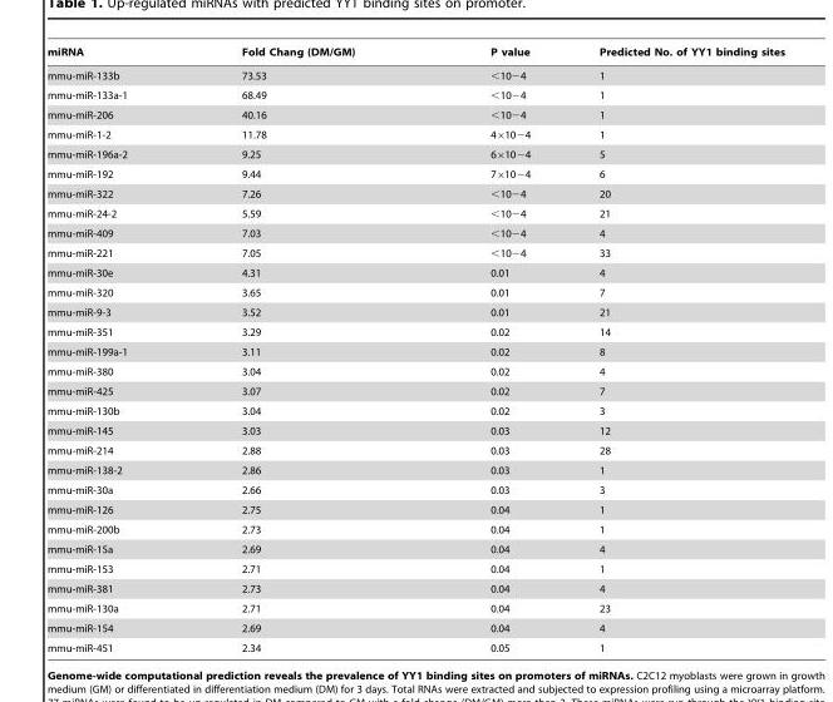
<table><thead><tr><td>miRNA</td><td>Fold Chang (DM/GM)</td><td>P value</td><td>Predicted No. of YY1 binding sites</td></tr></thead><tbody><tr><td>mmu-miR-133b</td><td>73.53</td><td>&lt;10−4</td><td>1</td></tr><tr><td>mmu-miR-133a-1</td><td>68.49</td><td>&lt;10−4</td><td>1</td></tr><tr><td>mmu-miR-206</td><td>40.16</td><td>&lt;10−4</td><td>1</td></tr><tr><td>mmu-miR-1-2</td><td>11.78</td><td>4×10−4</td><td>1</td></tr><tr><td>mmu-miR-196a-2</td><td>9.25</td><td>6×10−4</td><td>5</td></tr><tr><td>mmu-miR-192</td><td>9.44</td><td>7×10−4</td><td>6</td></tr><tr><td>mmu-miR-322</td><td>7.26</td><td>&lt;10−4</td><td>20</td></tr><tr><td>mmu-miR-24-2</td><td>5.59</td><td>&lt;10−4</td><td>21</td></tr><tr><td>mmu-miR-409</td><td>7.03</td><td>&lt;10−4</td><td>4</td></tr><tr><td>mmu-miR-221</td><td>7.05</td><td>&lt;10−4</td><td>33</td></tr><tr><td>mmu-miR-30e</td><td>4.31</td><td>0.01</td><td>4</td></tr><tr><td>mmu-miR-320</td><td>3.65</td><td>0.01</td><td>7</td></tr><tr><td>mmu-miR-9-3</td><td>3.52</td><td>0.01</td><td>21</td></tr><tr><td>mmu-miR-351</td><td>3.29</td><td>0.02</td><td>14</td></tr><tr><td>mmu-miR-199a-1</td><td>3.11</td><td>0.02</td><td>8</td></tr><tr><td>mmu-miR-380</td><td>3.04</td><td>0.02</td><td>4</td></tr><tr><td>mmu-miR-425</td><td>3.07</td><td>0.02</td><td>7</td></tr><tr><td>mmu-miR-130b</td><td>3.04</td><td>0.02</td><td>3</td></tr><tr><td>mmu-miR-145</td><td>3.03</td><td>0.03</td><td>12</td></tr><tr><td>mmu-miR-214</td><td>2.88</td><td>0.03</td><td>28</td></tr><tr><td>mmu-miR-138-2</td><td>2.86</td><td>0.03</td><td>1</td></tr><tr><td>mmu-miR-30a</td><td>2.66</td><td>0.03</td><td>3</td></tr><tr><td>mmu-miR-126</td><td>2.75</td><td>0.04</td><td>1</td></tr><tr><td>mmu-miR-200b</td><td>2.73</td><td>0.04</td><td>1</td></tr><tr><td>mmu-miR-15a</td><td>2.69</td><td>0.04</td><td>4</td></tr><tr><td>mmu-miR-153</td><td>2.71</td><td>0.04</td><td>1</td></tr><tr><td>mmu-miR-381</td><td>2.73</td><td>0.04</td><td>4</td></tr><tr><td>mmu-miR-130a</td><td>2.71</td><td>0.04</td><td>23</td></tr><tr><td>mmu-miR-154</td><td>2.69</td><td>0.04</td><td>4</td></tr><tr><td>mmu-miR-451</td><td>2.34</td><td>0.05</td><td>1</td></tr></tbody></table>